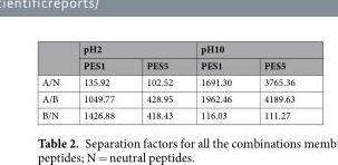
<table><thead><tr><td rowspan="2"></td><td colspan="2">pH2</td><td colspan="2">pH10</td></tr><tr><td>PES1</td><td>PES5</td><td>PES1</td><td>PES5</td></tr></thead><tbody><tr><td>A/N</td><td>135.92</td><td>102.52</td><td>1691.30</td><td>3765.36</td></tr><tr><td>A/B</td><td>1049.77</td><td>428.95</td><td>1962.46</td><td>4189.63</td></tr><tr><td>B/N</td><td>1426.88</td><td>418.43</td><td>116.03</td><td>111.27</td></tr></tbody></table>